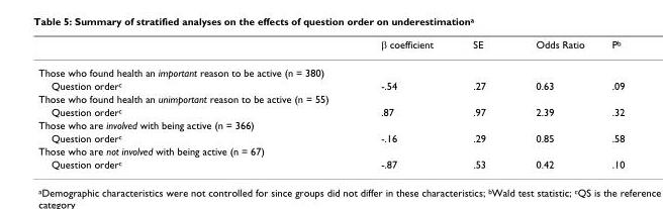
<table><thead><tr><td></td><td>β coefficient</td><td>SE</td><td>Odds Ratio</td><td>P<sup>b</sup></td></tr></thead><tbody><tr><td colspan="5">Those who found health an important reason to be active (n = 380)</td></tr><tr><td>Question order<sup>c</sup></td><td>-.54</td><td>.27</td><td>0.63</td><td>.09</td></tr><tr><td colspan="5">Those who found health an unimportant reason to be active (n = 55)</td></tr><tr><td>Question order<sup>c</sup></td><td>.87</td><td>.97</td><td>2.39</td><td>.32</td></tr><tr><td colspan="5">Those who are involved with being active (n = 366)</td></tr><tr><td>Question order<sup>c</sup></td><td>-.16</td><td>.29</td><td>0.85</td><td>.58</td></tr><tr><td colspan="5">Those who are not involved with being active (n = 67)</td></tr><tr><td>Question order<sup>c</sup></td><td>-.87</td><td>.53</td><td>0.42</td><td>.10</td></tr></tbody></table>